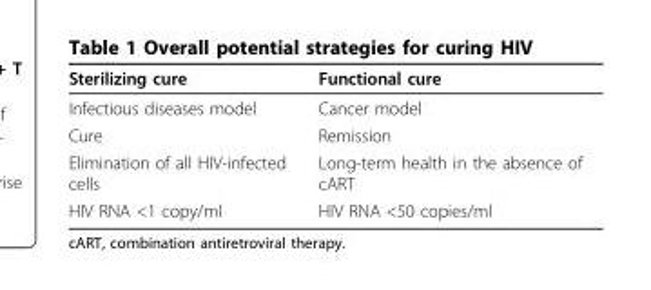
<table><tbody><tr><td>Sterilizing cure</td><td>Functional cure</td></tr><tr><td>Infectious diseases model</td><td>Cancer model</td></tr><tr><td>Cure</td><td>Remission</td></tr><tr><td>Elimination of all HIV-infected cells</td><td>Long-term health in the absence of cART</td></tr><tr><td>HIV RNA &lt;1 copy/ml</td><td>HIV RNA &lt;50 copies/ml</td></tr></tbody></table>